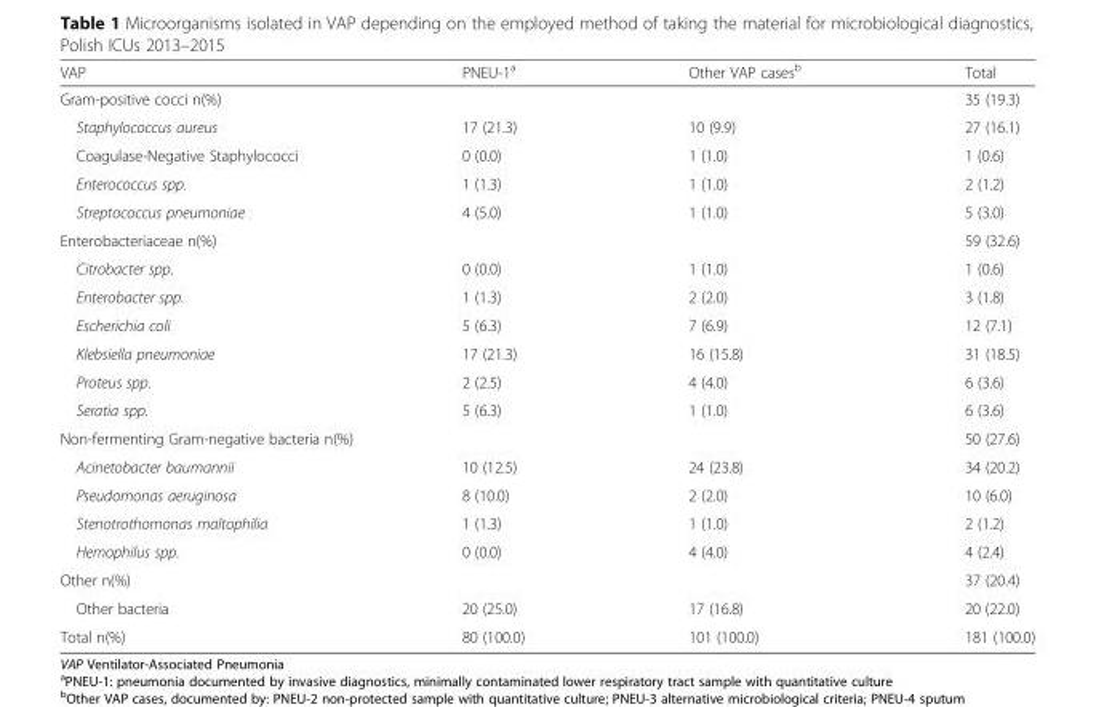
<table><thead><tr><td>VAP</td><td>PNEU-1<sup>a</sup></td><td>Other VAP cases<sup>b</sup></td><td>Total</td></tr></thead><tbody><tr><td colspan="3">Gram-positive cocci n(%)</td><td>35 (19.3)</td></tr><tr><td>Staphylococcus aureus</td><td>17 (21.3)</td><td>10 (9.9)</td><td>27 (16.1)</td></tr><tr><td>Coagulase-Negative Staphylococci</td><td>0 (0.0)</td><td>1 (1.0)</td><td>1 (0.6)</td></tr><tr><td>Enterococcus spp.</td><td>1 (1.3)</td><td>1 (1.0)</td><td>2 (1.2)</td></tr><tr><td>Streptococcus pneumoniae</td><td>4 (5.0)</td><td>1 (1.0)</td><td>5 (3.0)</td></tr><tr><td colspan="3">Enterobacteriaceae n(%)</td><td>59 (32.6)</td></tr><tr><td>Citrobacter spp.</td><td>0 (0.0)</td><td>1 (1.0)</td><td>1 (0.6)</td></tr><tr><td>Enterobacter spp.</td><td>1 (1.3)</td><td>2 (2.0)</td><td>3 (1.8)</td></tr><tr><td>Escherichia coli</td><td>5 (6.3)</td><td>7 (6.9)</td><td>12 (7.1)</td></tr><tr><td>Klebsiella pneumoniae</td><td>17 (21.3)</td><td>16 (15.8)</td><td>31 (18.5)</td></tr><tr><td>Proteus spp.</td><td>2 (2.5)</td><td>4 (4.0)</td><td>6 (3.6)</td></tr><tr><td>Seratia spp.</td><td>5 (6.3)</td><td>1 (1.0)</td><td>6 (3.6)</td></tr><tr><td colspan="3">Non-fermenting Gram-negative bacteria n(%)</td><td>50 (27.6)</td></tr><tr><td>Acinetobacter baumannii</td><td>10 (12.5)</td><td>24 (23.8)</td><td>34 (20.2)</td></tr><tr><td>Pseudomonas aeruginosa</td><td>8 (10.0)</td><td>2 (2.0)</td><td>10 (6.0)</td></tr><tr><td>Stenotrothomonas maltophilia</td><td>1 (1.3)</td><td>1 (1.0)</td><td>2 (1.2)</td></tr><tr><td>Hemophilus spp.</td><td>0 (0.0)</td><td>4 (4.0)</td><td>4 (2.4)</td></tr><tr><td colspan="3">Other n(%)</td><td>37 (20.4)</td></tr><tr><td>Other bacteria</td><td>20 (25.0)</td><td>17 (16.8)</td><td>20 (22.0)</td></tr><tr><td>Total n(%)</td><td>80 (100.0)</td><td>101 (100.0)</td><td>181 (100.0)</td></tr></tbody></table>